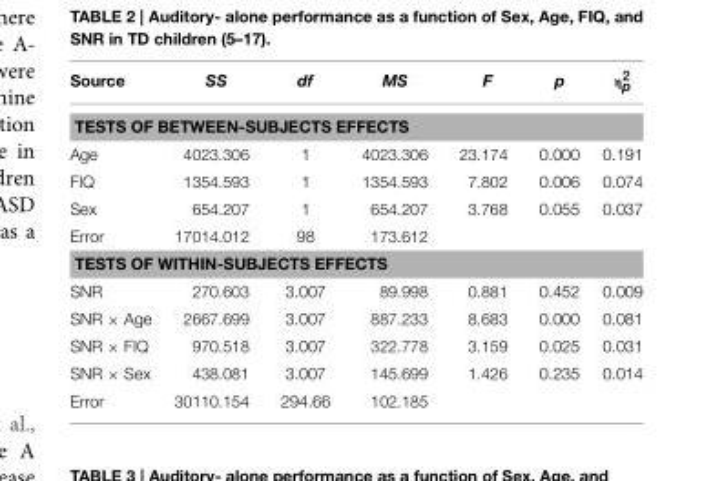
<table><thead><tr><td>Source</td><td>SS</td><td>df</td><td>MS</td><td>F</td><td>p</td><td>η<sup>2</sup><sub>p</sub></td></tr></thead><tbody><tr><td colspan="7">TESTS OF BETWEEN-SUBJECTS EFFECTS</td></tr><tr><td>Age</td><td>4023.306</td><td>1</td><td>4023.306</td><td>23.174</td><td>0.000</td><td>0.191</td></tr><tr><td>FIQ</td><td>1354.593</td><td>1</td><td>1354.593</td><td>7.802</td><td>0.006</td><td>0.074</td></tr><tr><td>Sex</td><td>654.207</td><td>1</td><td>654.207</td><td>3.768</td><td>0.055</td><td>0.037</td></tr><tr><td>Error</td><td>17014.012</td><td>98</td><td>173.612</td><td></td><td></td><td></td></tr><tr><td colspan="7">TESTS OF WITHIN-SUBJECTS EFFECTS</td></tr><tr><td>SNR</td><td>270.603</td><td>3.007</td><td>89.998</td><td>0.881</td><td>0.452</td><td>0.009</td></tr><tr><td>SNR × Age</td><td>2667.699</td><td>3.007</td><td>887.233</td><td>8.683</td><td>0.000</td><td>0.081</td></tr><tr><td>SNR × FIQ</td><td>970.518</td><td>3.007</td><td>322.778</td><td>3.159</td><td>0.025</td><td>0.031</td></tr><tr><td>SNR × Sex</td><td>438.081</td><td>3.007</td><td>145.699</td><td>1.426</td><td>0.235</td><td>0.014</td></tr><tr><td>Error</td><td>30110.154</td><td>294.66</td><td>102.185</td><td></td><td></td><td></td></tr></tbody></table>